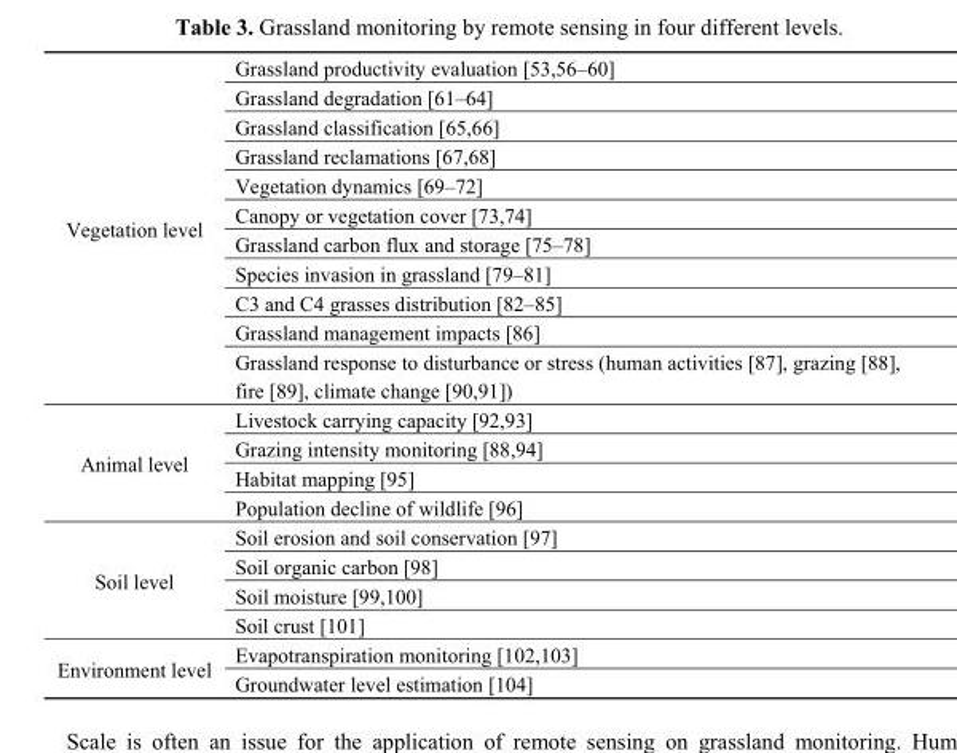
<table><tbody><tr><td rowspan="11">Vegetation level</td><td>Grassland productivity evaluation [53,56–60]</td></tr><tr><td>Grassland degradation [61–64]</td></tr><tr><td>Grassland classification [65,66]</td></tr><tr><td>Grassland reclamations [67,68]</td></tr><tr><td>Vegetation dynamics [69–72]</td></tr><tr><td>Canopy or vegetation cover [73,74]</td></tr><tr><td>Grassland carbon flux and storage [75–78]</td></tr><tr><td>Species invasion in grassland [79–81]</td></tr><tr><td>C3 and C4 grasses distribution [82–85]</td></tr><tr><td>Grassland management impacts [86]</td></tr><tr><td>Grassland response to disturbance or stress (human activities [87], grazing [88], fire [89], climate change [90,91])</td></tr><tr><td rowspan="4">Animal level</td><td>Livestock carrying capacity [92,93]</td></tr><tr><td>Grazing intensity monitoring [88,94]</td></tr><tr><td>Habitat mapping [95]</td></tr><tr><td>Population decline of wildlife [96]</td></tr><tr><td rowspan="4">Soil level</td><td>Soil erosion and soil conservation [97]</td></tr><tr><td>Soil organic carbon [98]</td></tr><tr><td>Soil moisture [99,100]</td></tr><tr><td>Soil crust [101]</td></tr><tr><td rowspan="2">Environment level</td><td>Evapotranspiration monitoring [102,103]</td></tr><tr><td>Groundwater level estimation [104]</td></tr></tbody></table>